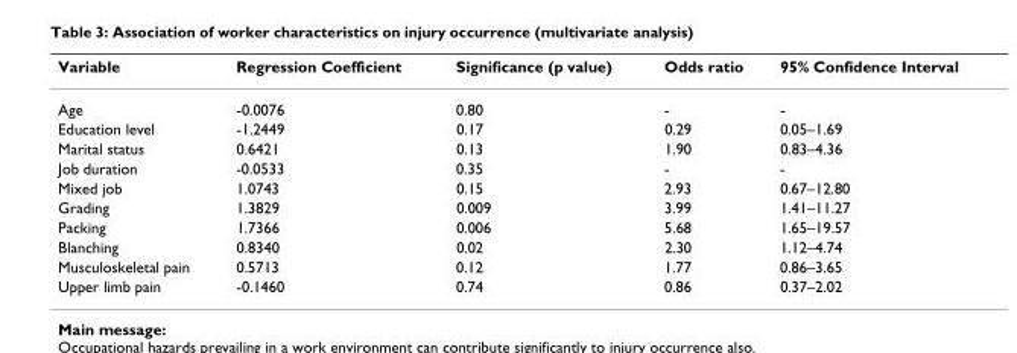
<table><thead><tr><td>Variable</td><td>Regression Coefficient</td><td>Significance (p value)</td><td>Odds ratio</td><td>95% Confidence Interval</td></tr></thead><tbody><tr><td>Age</td><td>-0.0076</td><td>0.80</td><td>-</td><td>-</td></tr><tr><td>Education level</td><td>-1.2449</td><td>0.17</td><td>0.29</td><td>0.05–1.69</td></tr><tr><td>Marital status</td><td>0.6421</td><td>0.13</td><td>1.90</td><td>0.83–4.36</td></tr><tr><td>Job duration</td><td>-0.0533</td><td>0.35</td><td>-</td><td>-</td></tr><tr><td>Mixed job</td><td>1.0743</td><td>0.15</td><td>2.93</td><td>0.67–12.80</td></tr><tr><td>Grading</td><td>1.3829</td><td>0.009</td><td>3.99</td><td>1.41–11.27</td></tr><tr><td>Packing</td><td>1.7366</td><td>0.006</td><td>5.68</td><td>1.65–19.57</td></tr><tr><td>Blanching</td><td>0.8340</td><td>0.02</td><td>2.30</td><td>1.12–4.74</td></tr><tr><td>Musculoskeletal pain</td><td>0.5713</td><td>0.12</td><td>1.77</td><td>0.86–3.65</td></tr><tr><td>Upper limb pain</td><td>-0.1460</td><td>0.74</td><td>0.86</td><td>0.37–2.02</td></tr></tbody></table>